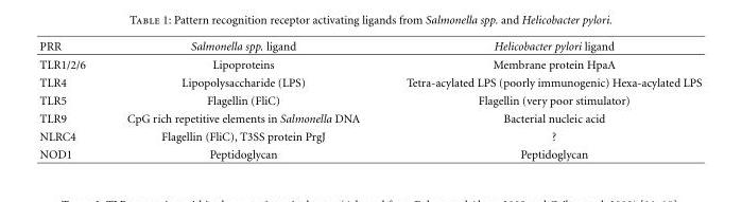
<table><thead><tr><td>PRR</td><td>Salmonella spp. ligand</td><td>Helicobacter pylori ligand</td></tr></thead><tbody><tr><td>TLR1/2/6</td><td>Lipoproteins</td><td>Membrane protein HpaA</td></tr><tr><td>TLR4</td><td>Lipopolysaccharide (LPS)</td><td>Tetra-acylated LPS (poorly immunogenic) Hexa-acylated LPS</td></tr><tr><td>TLR5</td><td>Flagellin (FliC)</td><td>Flagellin (very poor stimulator)</td></tr><tr><td>TLR9</td><td>CpG rich repetitive elements in Salmonella DNA</td><td>Bacterial nucleic acid</td></tr><tr><td>NLRC4</td><td>Flagellin (FliC), T3SS protein PrgJ</td><td>?</td></tr><tr><td>NOD1</td><td>Peptidoglycan</td><td>Peptidoglycan</td></tr></tbody></table>